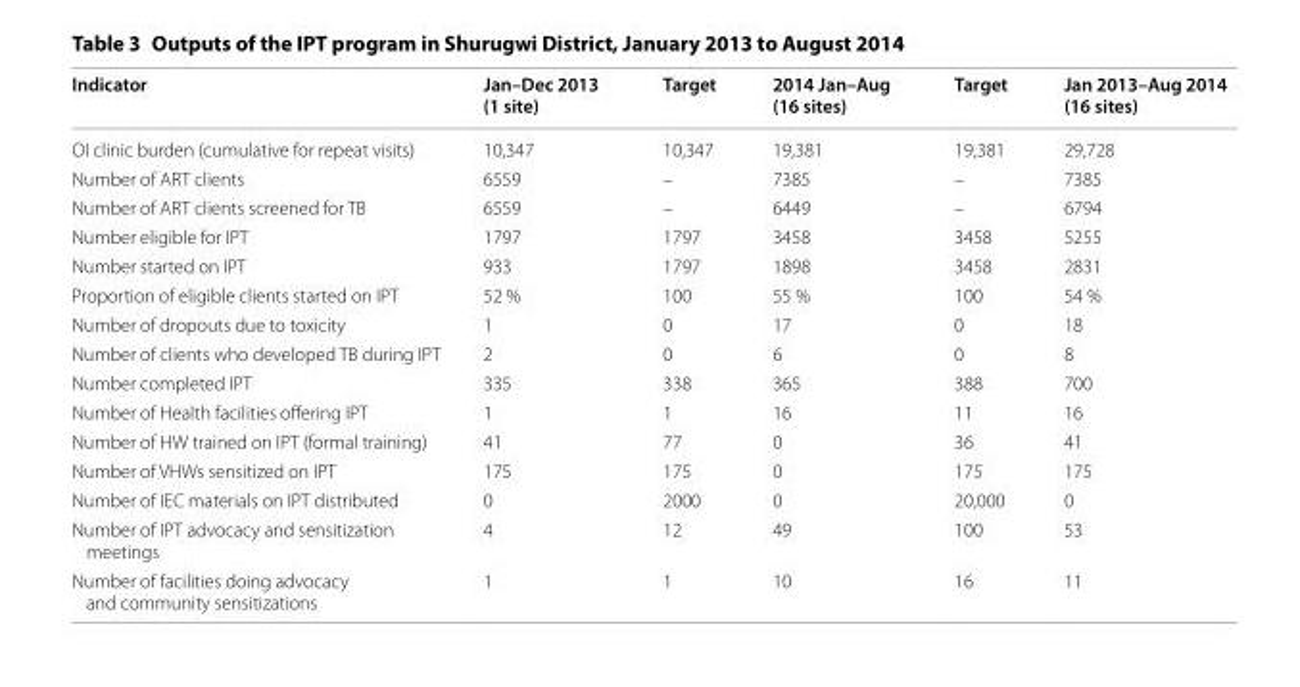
<table><thead><tr><td>Indicator</td><td>Jan–Dec 2013 (1 site)</td><td>Target</td><td>2014 Jan–Aug (16 sites)</td><td>Target</td><td>Jan 2013–Aug 2014 (16 sites)</td></tr></thead><tbody><tr><td>OI clinic burden (cumulative for repeat visits)</td><td>10,347</td><td>10,347</td><td>19,381</td><td>19,381</td><td>29,728</td></tr><tr><td>Number of ART clients</td><td>6559</td><td>–</td><td>7385</td><td>–</td><td>7385</td></tr><tr><td>Number of ART clients screened for TB</td><td>6559</td><td>–</td><td>6449</td><td>–</td><td>6794</td></tr><tr><td>Number eligible for IPT</td><td>1797</td><td>1797</td><td>3458</td><td>3458</td><td>5255</td></tr><tr><td>Number started on IPT</td><td>933</td><td>1797</td><td>1898</td><td>3458</td><td>2831</td></tr><tr><td>Proportion of eligible clients started on IPT</td><td>52 %</td><td>100</td><td>55 %</td><td>100</td><td>54 %</td></tr><tr><td>Number of dropouts due to toxicity</td><td>1</td><td>0</td><td>17</td><td>0</td><td>18</td></tr><tr><td>Number of clients who developed TB during IPT</td><td>2</td><td>0</td><td>6</td><td>0</td><td>8</td></tr><tr><td>Number completed IPT</td><td>335</td><td>338</td><td>365</td><td>388</td><td>700</td></tr><tr><td>Number of Health facilities offering IPT</td><td>1</td><td>1</td><td>16</td><td>11</td><td>16</td></tr><tr><td>Number of HW trained on IPT (formal training)</td><td>41</td><td>77</td><td>0</td><td>36</td><td>41</td></tr><tr><td>Number of VHWs sensitized on IPT</td><td>175</td><td>175</td><td>0</td><td>175</td><td>175</td></tr><tr><td>Number of IEC materials on IPT distributed</td><td>0</td><td>2000</td><td>0</td><td>20,000</td><td>0</td></tr><tr><td>Number of IPT advocacy and sensitization meetings</td><td>4</td><td>12</td><td>49</td><td>100</td><td>53</td></tr><tr><td>Number of facilities doing advocacy and community sensitizations</td><td>1</td><td>1</td><td>10</td><td>16</td><td>11</td></tr></tbody></table>